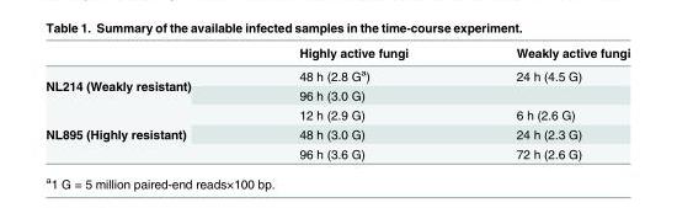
<table><thead><tr><td></td><td>Highly active fungi</td><td>Weakly active fungi</td></tr></thead><tbody><tr><td rowspan="2">NL214 (Weakly resistant)</td><td>48 h (2.8 G<sup>a</sup>)</td><td>24 h (4.5 G)</td></tr><tr><td>96 h (3.0 G)</td><td></td></tr><tr><td rowspan="3">NL895 (Highly resistant)</td><td>12 h (2.9 G)</td><td>6 h (2.6 G)</td></tr><tr><td>48 h (3.0 G)</td><td>24 h (2.3 G)</td></tr><tr><td>96 h (3.6 G)</td><td>72 h (2.6 G)</td></tr></tbody></table>